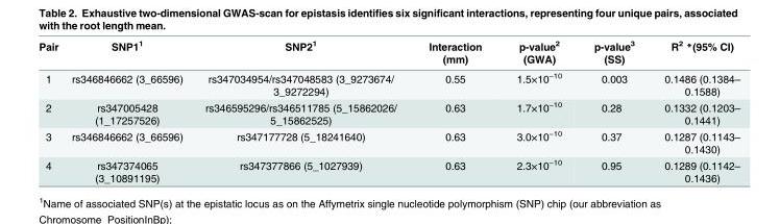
<table><thead><tr><td>Pair</td><td>SNP1<sup>1</sup></td><td>SNP2<sup>1</sup></td><td>Interaction (mm)</td><td>p-value<sup>2</sup> (GWA)</td><td>p-value<sup>3</sup> (SS)</td><td>R<sup>2</sup> *(95% CI)</td></tr></thead><tbody><tr><td>1</td><td>rs346846662 (3_66596)</td><td>rs347034954/rs347048583 (3_9273674/ 3_9272294)</td><td>0.55</td><td>1.5×10<sup>−10</sup></td><td>0.003</td><td>0.1486 (0.1384– 0.1588)</td></tr><tr><td>2</td><td>rs347005428 (1_17257526)</td><td>rs346595296/rs346511785 (5_15862026/ 5_15862525)</td><td>0.63</td><td>1.7×10<sup>−10</sup></td><td>0.28</td><td>0.1332 (0.1203– 0.1441)</td></tr><tr><td>3</td><td>rs346846662 (3_66596)</td><td>rs347177728 (5_18241640)</td><td>0.63</td><td>3.0×10<sup>−10</sup></td><td>0.37</td><td>0.1287 (0.1143– 0.1430)</td></tr><tr><td>4</td><td>rs347374065 (3_10891195)</td><td>rs347377866 (5_1027939)</td><td>0.63</td><td>2.3×10<sup>−10</sup></td><td>0.95</td><td>0.1289 (0.1142– 0.1436)</td></tr></tbody></table>